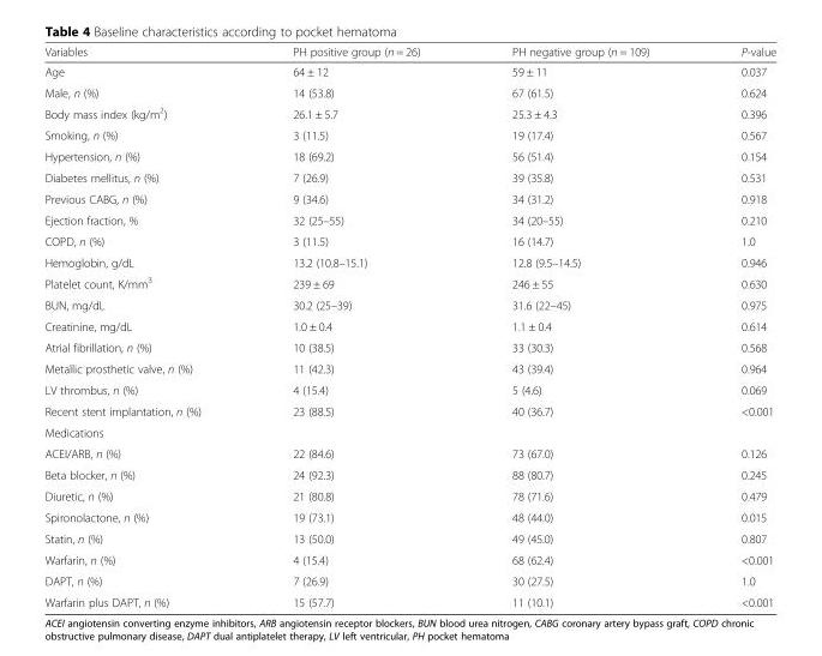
<table><thead><tr><td>Variables</td><td>PH positive group (n = 26)</td><td>PH negative group (n = 109)</td><td>P-value</td></tr></thead><tbody><tr><td>Age</td><td>64 ± 12</td><td>59 ± 11</td><td>0.037</td></tr><tr><td>Male, n (%)</td><td>14 (53.8)</td><td>67 (61.5)</td><td>0.624</td></tr><tr><td>Body mass index (kg/m<sup>2</sup>)</td><td>26.1 ± 5.7</td><td>25.3 ± 4.3</td><td>0.396</td></tr><tr><td>Smoking, n (%)</td><td>3 (11.5)</td><td>19 (17.4)</td><td>0.567</td></tr><tr><td>Hypertension, n (%)</td><td>18 (69.2)</td><td>56 (51.4)</td><td>0.154</td></tr><tr><td>Diabetes mellitus, n (%)</td><td>7 (26.9)</td><td>39 (35.8)</td><td>0.531</td></tr><tr><td>Previous CABG, n (%)</td><td>9 (34.6)</td><td>34 (31.2)</td><td>0.918</td></tr><tr><td>Ejection fraction, %</td><td>32 (25–55)</td><td>34 (20–55)</td><td>0.210</td></tr><tr><td>COPD, n (%)</td><td>3 (11.5)</td><td>16 (14.7)</td><td>1.0</td></tr><tr><td>Hemoglobin, g/dL</td><td>13.2 (10.8–15.1)</td><td>12.8 (9.5–14.5)</td><td>0.946</td></tr><tr><td>Platelet count, K/mm<sup>3</sup></td><td>239 ± 69</td><td>246 ± 55</td><td>0.630</td></tr><tr><td>BUN, mg/dL</td><td>30.2 (25–39)</td><td>31.6 (22–45)</td><td>0.975</td></tr><tr><td>Creatinine, mg/dL</td><td>1.0 ± 0.4</td><td>1.1 ± 0.4</td><td>0.614</td></tr><tr><td>Atrial fibrillation, n (%)</td><td>10 (38.5)</td><td>33 (30.3)</td><td>0.568</td></tr><tr><td>Metallic prosthetic valve, n (%)</td><td>11 (42.3)</td><td>43 (39.4)</td><td>0.964</td></tr><tr><td>LV thrombus, n (%)</td><td>4 (15.4)</td><td>5 (4.6)</td><td>0.069</td></tr><tr><td>Recent stent implantation, n (%)</td><td>23 (88.5)</td><td>40 (36.7)</td><td>&lt;0.001</td></tr><tr><td colspan="4">Medications</td></tr><tr><td>ACEI/ARB, n (%)</td><td>22 (84.6)</td><td>73 (67.0)</td><td>0.126</td></tr><tr><td>Beta blocker, n (%)</td><td>24 (92.3)</td><td>88 (80.7)</td><td>0.245</td></tr><tr><td>Diuretic, n (%)</td><td>21 (80.8)</td><td>78 (71.6)</td><td>0.479</td></tr><tr><td>Spironolactone, n (%)</td><td>19 (73.1)</td><td>48 (44.0)</td><td>0.015</td></tr><tr><td>Statin, n (%)</td><td>13 (50.0)</td><td>49 (45.0)</td><td>0.807</td></tr><tr><td>Warfarin, n (%)</td><td>4 (15.4)</td><td>68 (62.4)</td><td>&lt;0.001</td></tr><tr><td>DAPT, n (%)</td><td>7 (26.9)</td><td>30 (27.5)</td><td>1.0</td></tr><tr><td>Warfarin plus DAPT, n (%)</td><td>15 (57.7)</td><td>11 (10.1)</td><td>&lt;0.001</td></tr></tbody></table>